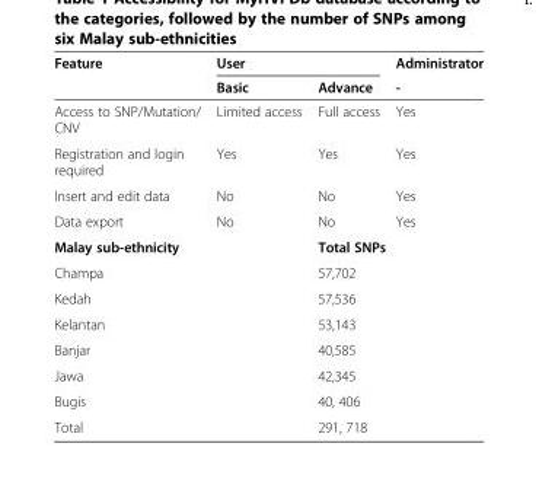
<table><thead><tr><td rowspan="2">Feature</td><td colspan="2">User</td><td rowspan="2">Administrator -</td></tr><tr><td>Basic</td><td>Advance</td></tr></thead><tbody><tr><td>Access to SNP/Mutation/ CNV</td><td>Limited access</td><td>Full access</td><td>Yes</td></tr><tr><td>Registration and login required</td><td>Yes</td><td>Yes</td><td>Yes</td></tr><tr><td>Insert and edit data</td><td>No</td><td>No</td><td>Yes</td></tr><tr><td>Data export</td><td>No</td><td>No</td><td>Yes</td></tr><tr><td colspan="2">Malay sub-ethnicity</td><td colspan="2">Total SNPs</td></tr><tr><td colspan="2">Champa</td><td colspan="2">57,702</td></tr><tr><td colspan="2">Kedah</td><td colspan="2">57,536</td></tr><tr><td colspan="2">Kelantan</td><td colspan="2">53,143</td></tr><tr><td colspan="2">Banjar</td><td colspan="2">40,585</td></tr><tr><td colspan="2">Jawa</td><td colspan="2">42,345</td></tr><tr><td colspan="2">Bugis</td><td colspan="2">40, 406</td></tr><tr><td colspan="2">Total</td><td colspan="2">291, 718</td></tr></tbody></table>